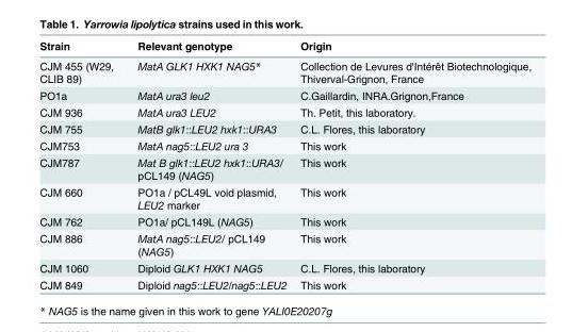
<table><thead><tr><td>Strain</td><td>Relevant genotype</td><td>Origin</td></tr></thead><tbody><tr><td>CJM 455 (W29, CLIB 89)</td><td>MatA GLK1 HXK1 NAG5*</td><td>Collection de Levures d&#x27;Intérêt Biotechnologique, Thiverval-Grignon, France</td></tr><tr><td>PO1a</td><td>MatA ura3 leu2</td><td>C.Gaillardin, INRA.Grignon,France</td></tr><tr><td>CJM 936</td><td>MatA ura3 LEU2</td><td>Th. Petit, this laboratory.</td></tr><tr><td>CJM 755</td><td>MatB glk1::LEU2 hxk1::URA3</td><td>C.L. Flores, this laboratory</td></tr><tr><td>CJM753</td><td>MatA nag5::LEU2 ura 3</td><td>This work</td></tr><tr><td>CJM787</td><td>Mat B glk1::LEU2 hxk1::URA3/ pCL149 (NAG5)</td><td>This work</td></tr><tr><td>CJM 660</td><td>PO1a / pCL49L void plasmid, LEU2 marker</td><td>This work</td></tr><tr><td>CJM 762</td><td>PO1a/ pCL149L (NAG5)</td><td>This work</td></tr><tr><td>CJM 886</td><td>MatA nag5::LEU2/ pCL149 (NAG5)</td><td>This work</td></tr><tr><td>CJM 1060</td><td>Diploid GLK1 HXK1 NAG5</td><td>C.L. Flores, this laboratory</td></tr><tr><td>CJM 849</td><td>Diploid nag5::LEU2/nag5::LEU2</td><td>This work</td></tr></tbody></table>